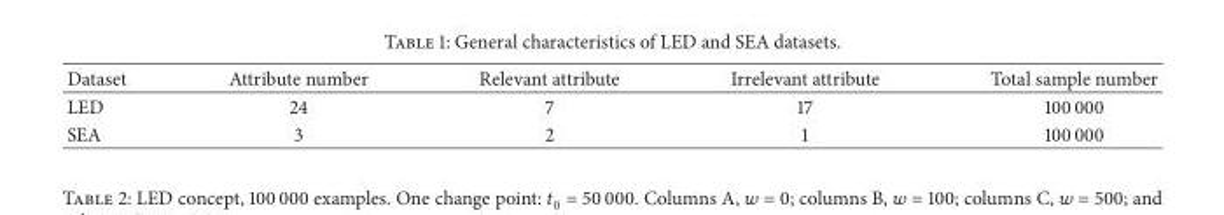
<table><thead><tr><td>Dataset</td><td>Attribute number</td><td>Relevant attribute</td><td>Irrelevant attribute</td><td>Total sample number</td></tr></thead><tbody><tr><td>LED</td><td>24</td><td>7</td><td>17</td><td>100 000</td></tr><tr><td>SEA</td><td>3</td><td>2</td><td>1</td><td>100 000</td></tr></tbody></table>